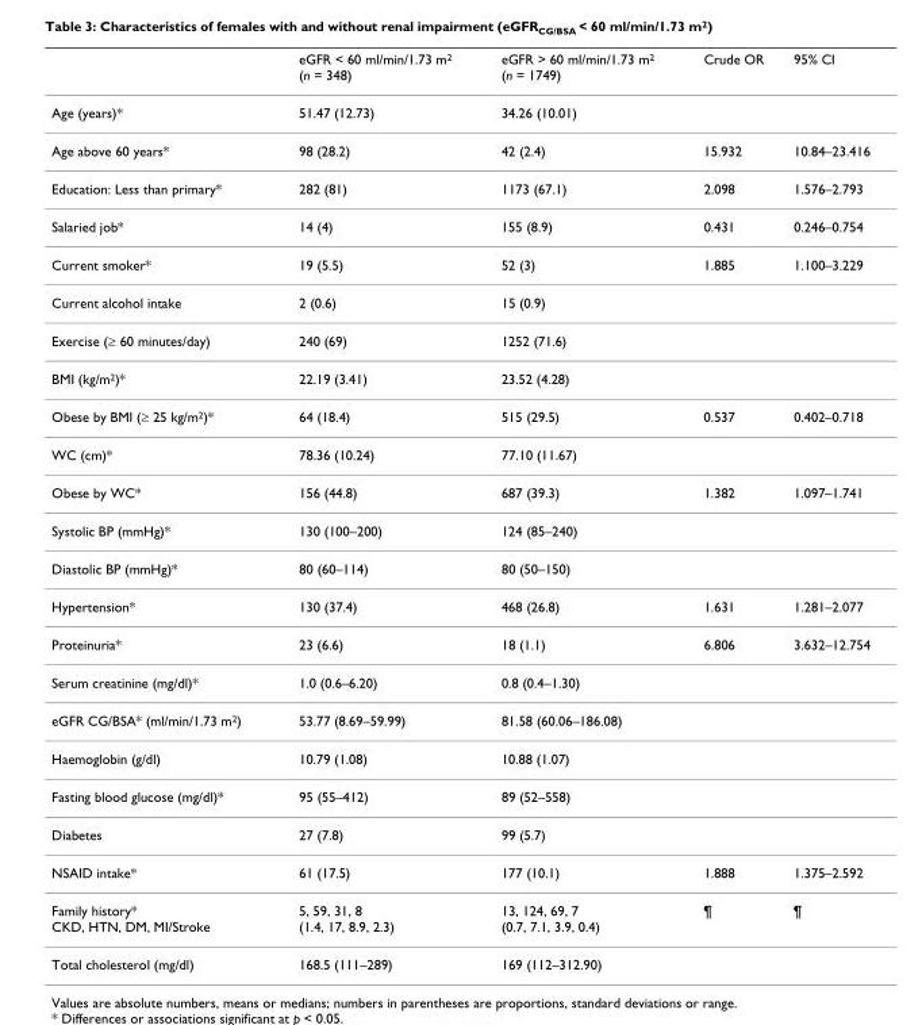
<table><thead><tr><td></td><td>eGFR &lt; 60 ml/min/1.73 m<sup>2</sup> (n = 348)</td><td>eGFR &gt; 60 ml/min/1.73 m<sup>2</sup> (n = 1749)</td><td>Crude OR</td><td>95% CI</td></tr></thead><tbody><tr><td>Age (years)*</td><td>51.47 (12.73)</td><td>34.26 (10.01)</td><td></td><td></td></tr><tr><td>Age above 60 years*</td><td>98 (28.2)</td><td>42 (2.4)</td><td>15.932</td><td>10.84–23.416</td></tr><tr><td>Education: Less than primary*</td><td>282 (81)</td><td>1173 (67.1)</td><td>2.098</td><td>1.576–2.793</td></tr><tr><td>Salaried job*</td><td>14 (4)</td><td>155 (8.9)</td><td>0.431</td><td>0.246–0.754</td></tr><tr><td>Current smoker*</td><td>19 (5.5)</td><td>52 (3)</td><td>1.885</td><td>1.100–3.229</td></tr><tr><td>Current alcohol intake</td><td>2 (0.6)</td><td>15 (0.9)</td><td></td><td></td></tr><tr><td>Exercise (≥ 60 minutes/day)</td><td>240 (69)</td><td>1252 (71.6)</td><td></td><td></td></tr><tr><td>BMI (kg/m<sup>2</sup>)*</td><td>22.19 (3.41)</td><td>23.52 (4.28)</td><td></td><td></td></tr><tr><td>Obese by BMI (≥ 25 kg/m<sup>2</sup>)*</td><td>64 (18.4)</td><td>515 (29.5)</td><td>0.537</td><td>0.402–0.718</td></tr><tr><td>WC (cm)*</td><td>78.36 (10.24)</td><td>77.10 (11.67)</td><td></td><td></td></tr><tr><td>Obese by WC*</td><td>156 (44.8)</td><td>687 (39.3)</td><td>1.382</td><td>1.097–1.741</td></tr><tr><td>Systolic BP (mmHg)*</td><td>130 (100–200)</td><td>124 (85–240)</td><td></td><td></td></tr><tr><td>Diastolic BP (mmHg)*</td><td>80 (60–114)</td><td>80 (50–150)</td><td></td><td></td></tr><tr><td>Hypertension*</td><td>130 (37.4)</td><td>468 (26.8)</td><td>1.631</td><td>1.281–2.077</td></tr><tr><td>Proteinuria*</td><td>23 (6.6)</td><td>18 (1.1)</td><td>6.806</td><td>3.632–12.754</td></tr><tr><td>Serum creatinine (mg/dl)*</td><td>1.0 (0.6–6.20)</td><td>0.8 (0.4–1.30)</td><td></td><td></td></tr><tr><td>eGFR CG/BSA* (ml/min/1.73 m<sup>2</sup>)</td><td>53.77 (8.69–59.99)</td><td>81.58 (60.06–186.08)</td><td></td><td></td></tr><tr><td>Haemoglobin (g/dl)</td><td>10.79 (1.08)</td><td>10.88 (1.07)</td><td></td><td></td></tr><tr><td>Fasting blood glucose (mg/dl)*</td><td>95 (55–412)</td><td>89 (52–558)</td><td></td><td></td></tr><tr><td>Diabetes</td><td>27 (7.8)</td><td>99 (5.7)</td><td></td><td></td></tr><tr><td>NSAID intake*</td><td>61 (17.5)</td><td>177 (10.1)</td><td>1.888</td><td>1.375–2.592</td></tr><tr><td>Family history* CKD, HTN, DM, MI/Stroke</td><td>5, 59, 31, 8 (1.4, 17, 8.9, 2.3)</td><td>13, 124, 69, 7 (0.7, 7.1, 3.9, 0.4)</td><td>¶</td><td>¶</td></tr><tr><td>Total cholesterol (mg/dl)</td><td>168.5 (111–289)</td><td>169 (112–312.90)</td><td></td><td></td></tr></tbody></table>